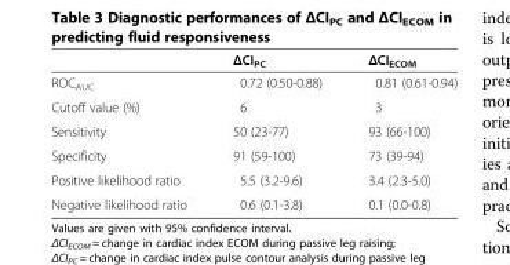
<table><thead><tr><td></td><td>ΔCI<sub>PC</sub></td><td>ΔCI<sub>ECOM</sub></td></tr></thead><tbody><tr><td>ROC<sub>AUC</sub></td><td>0.72 (0.50-0.88)</td><td>0.81 (0.61-0.94)</td></tr><tr><td>Cutoff value (%)</td><td>6</td><td>3</td></tr><tr><td>Sensitivity</td><td>50 (23-77)</td><td>93 (66-100)</td></tr><tr><td>Specificity</td><td>91 (59-100)</td><td>73 (39-94)</td></tr><tr><td>Positive likelihood ratio</td><td>5.5 (3.2-9.6)</td><td>3.4 (2.3-5.0)</td></tr><tr><td>Negative likelihood ratio</td><td>0.6 (0.1-3.8)</td><td>0.1 (0.0-0.8)</td></tr></tbody></table>